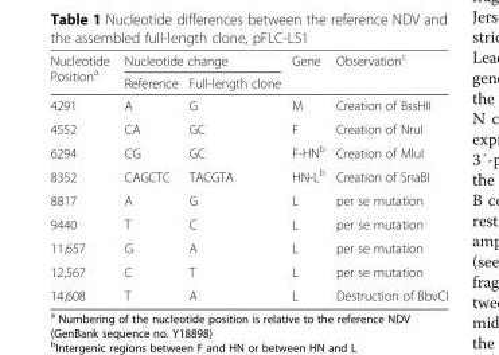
<table><thead><tr><td rowspan="2">Nucleotide Position<sup>a</sup></td><td colspan="2">Nucleotide change</td><td rowspan="2">Gene</td><td rowspan="2">Observation<sup>c</sup></td></tr><tr><td>Reference</td><td>Full-length clone</td></tr></thead><tbody><tr><td>4291</td><td>A</td><td>G</td><td>M</td><td>Creation of BssHII</td></tr><tr><td>4552</td><td>CA</td><td>GC</td><td>F</td><td>Creation of NruI</td></tr><tr><td>6294</td><td>CG</td><td>GC</td><td>F-HN<sup>b</sup></td><td>Creation of MluI</td></tr><tr><td>8352</td><td>CAGCTC</td><td>TACGTA</td><td>HN-L<sup>b</sup></td><td>Creation of SnaBI</td></tr><tr><td>8817</td><td>A</td><td>G</td><td>L</td><td>per se mutation</td></tr><tr><td>9440</td><td>T</td><td>C</td><td>L</td><td>per se mutation</td></tr><tr><td>11,657</td><td>G</td><td>A</td><td>L</td><td>per se mutation</td></tr><tr><td>12,567</td><td>C</td><td>T</td><td>L</td><td>per se mutation</td></tr><tr><td>14,608</td><td>T</td><td>A</td><td>L</td><td>Destruction of BbvCI</td></tr></tbody></table>